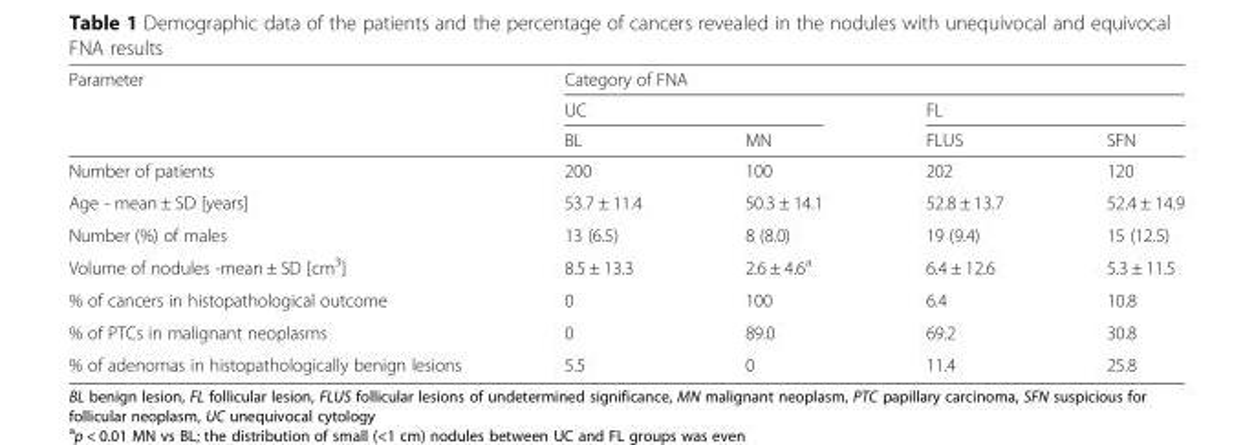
<table><thead><tr><td rowspan="3">Parameter</td><td colspan="4">Category of FNA</td></tr><tr><td colspan="2">UC</td><td colspan="2">FL</td></tr><tr><td>BL</td><td>MN</td><td>FLUS</td><td>SFN</td></tr></thead><tbody><tr><td>Number of patients</td><td>200</td><td>100</td><td>202</td><td>120</td></tr><tr><td>Age - mean ± SD [years]</td><td>53.7 ± 11.4</td><td>50.3 ± 14.1</td><td>52.8 ± 13.7</td><td>52.4 ± 14.9</td></tr><tr><td>Number (%) of males</td><td>13 (6.5)</td><td>8 (8.0)</td><td>19 (9.4)</td><td>15 (12.5)</td></tr><tr><td>Volume of nodules -mean ± SD [cm<sup>3</sup>]</td><td>8.5 ± 13.3</td><td>2.6 ± 4.6<sup>a</sup></td><td>6.4 ± 12.6</td><td>5.3 ± 11.5</td></tr><tr><td>% of cancers in histopathological outcome</td><td>0</td><td>100</td><td>6.4</td><td>10.8</td></tr><tr><td>% of PTCs in malignant neoplasms</td><td>0</td><td>89.0</td><td>69.2</td><td>30.8</td></tr><tr><td>% of adenomas in histopathologically benign lesions</td><td>5.5</td><td>0</td><td>11.4</td><td>25.8</td></tr></tbody></table>